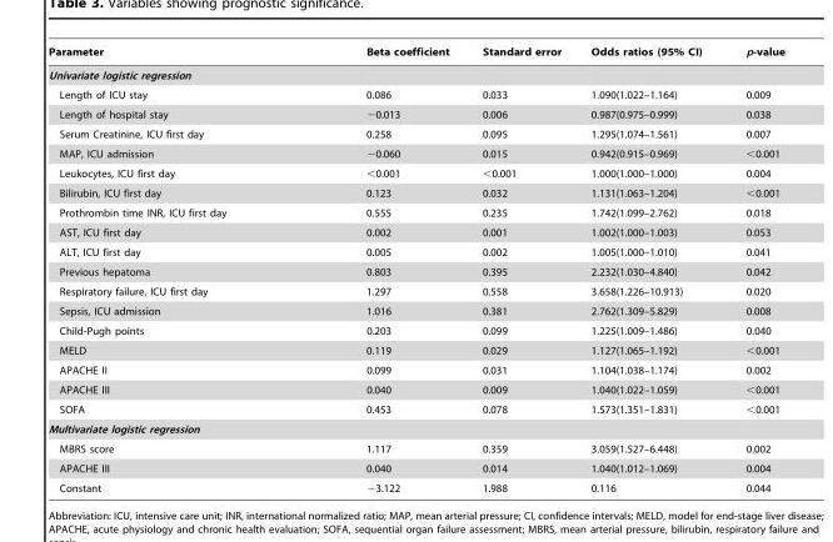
<table><thead><tr><td>Parameter</td><td>Beta coefficient</td><td>Standard error</td><td>Odds ratios (95% CI)</td><td>p-value</td></tr></thead><tbody><tr><td colspan="5">Univariate logistic regression</td></tr><tr><td>Length of ICU stay</td><td>0.086</td><td>0.033</td><td>1.090(1.022–1.164)</td><td>0.009</td></tr><tr><td>Length of hospital stay</td><td>−0.013</td><td>0.006</td><td>0.987(0.975–0.999)</td><td>0.038</td></tr><tr><td>Serum Creatinine, ICU first day</td><td>0.258</td><td>0.095</td><td>1.295(1.074–1.561)</td><td>0.007</td></tr><tr><td>MAP, ICU admission</td><td>−0.060</td><td>0.015</td><td>0.942(0.915–0.969)</td><td>&lt;0.001</td></tr><tr><td>Leukocytes, ICU first day</td><td>&lt;0.001</td><td>&lt;0.001</td><td>1.000(1.000–1.000)</td><td>0.004</td></tr><tr><td>Bilirubin, ICU first day</td><td>0.123</td><td>0.032</td><td>1.131(1.063–1.204)</td><td>&lt;0.001</td></tr><tr><td>Prothrombin time INR, ICU first day</td><td>0.555</td><td>0.235</td><td>1.742(1.099–2.762)</td><td>0.018</td></tr><tr><td>AST, ICU first day</td><td>0.002</td><td>0.001</td><td>1.002(1.000–1.003)</td><td>0.053</td></tr><tr><td>ALT, ICU first day</td><td>0.005</td><td>0.002</td><td>1.005(1.000–1.010)</td><td>0.041</td></tr><tr><td>Previous hepatoma</td><td>0.803</td><td>0.395</td><td>2.232(1.030–4.840)</td><td>0.042</td></tr><tr><td>Respiratory failure, ICU first day</td><td>1.297</td><td>0.558</td><td>3.658(1.226–10.913)</td><td>0.020</td></tr><tr><td>Sepsis, ICU admission</td><td>1.016</td><td>0.381</td><td>2.762(1.309–5.829)</td><td>0.008</td></tr><tr><td>Child-Pugh points</td><td>0.203</td><td>0.099</td><td>1.225(1.009–1.486)</td><td>0.040</td></tr><tr><td>MELD</td><td>0.119</td><td>0.029</td><td>1.127(1.065–1.192)</td><td>&lt;0.001</td></tr><tr><td>APACHE II</td><td>0.099</td><td>0.031</td><td>1.104(1.038–1.174)</td><td>0.002</td></tr><tr><td>APACHE III</td><td>0.040</td><td>0.009</td><td>1.040(1.022–1.059)</td><td>&lt;0.001</td></tr><tr><td>SOFA</td><td>0.453</td><td>0.078</td><td>1.573(1.351–1.831)</td><td>&lt;0.001</td></tr><tr><td colspan="5">Multivariate logistic regression</td></tr><tr><td>MBRS score</td><td>1.117</td><td>0.359</td><td>3.059(1.527–6.448)</td><td>0.002</td></tr><tr><td>APACHE III</td><td>0.040</td><td>0.014</td><td>1.040(1.012–1.069)</td><td>0.004</td></tr><tr><td>Constant</td><td>−3.122</td><td>1.988</td><td>0.116</td><td>0.044</td></tr></tbody></table>